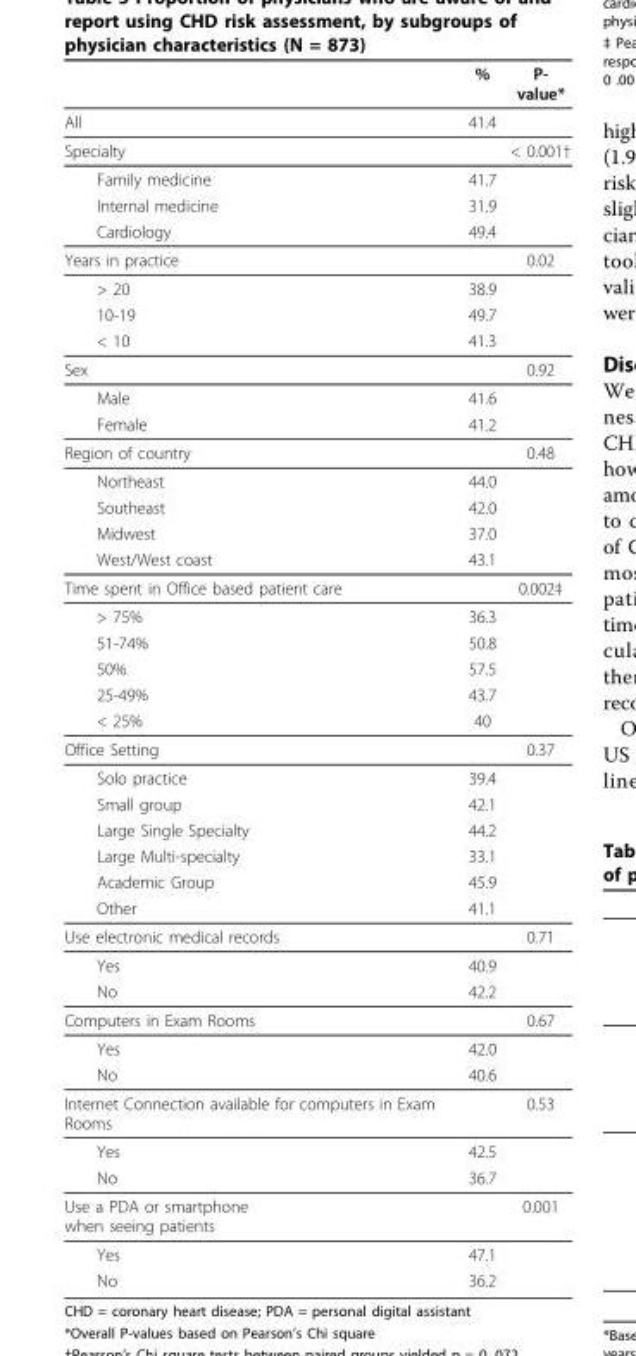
<table><thead><tr><td></td><td>%</td><td>P- value*</td></tr></thead><tbody><tr><td>All</td><td>41.4</td><td></td></tr><tr><td>Specialty</td><td></td><td>&lt; 0.001†</td></tr><tr><td>Family medicine</td><td>41.7</td><td></td></tr><tr><td>Internal medicine</td><td>31.9</td><td></td></tr><tr><td>Cardiology</td><td>49.4</td><td></td></tr><tr><td>Years in practice</td><td></td><td>0.02</td></tr><tr><td>&gt; 20</td><td>38.9</td><td></td></tr><tr><td>10-19</td><td>49.7</td><td></td></tr><tr><td>&lt; 10</td><td>41.3</td><td></td></tr><tr><td>Sex</td><td></td><td>0.92</td></tr><tr><td>Male</td><td>41.6</td><td></td></tr><tr><td>Female</td><td>41.2</td><td></td></tr><tr><td>Region of country</td><td></td><td>0.48</td></tr><tr><td>Northeast</td><td>44.0</td><td></td></tr><tr><td>Southeast</td><td>42.0</td><td></td></tr><tr><td>Midwest</td><td>37.0</td><td></td></tr><tr><td>West/West coast</td><td>43.1</td><td></td></tr><tr><td>Time spent in Office based patient care</td><td></td><td>0.002‡</td></tr><tr><td>&gt; 75%</td><td>36.3</td><td></td></tr><tr><td>51-74%</td><td>50.8</td><td></td></tr><tr><td>50%</td><td>57.5</td><td></td></tr><tr><td>25-49%</td><td>43.7</td><td></td></tr><tr><td>&lt; 25%</td><td>40</td><td></td></tr><tr><td>Office Setting</td><td></td><td>0.37</td></tr><tr><td>Solo practice</td><td>39.4</td><td></td></tr><tr><td>Small group</td><td>42.1</td><td></td></tr><tr><td>Large Single Specialty</td><td>44.2</td><td></td></tr><tr><td>Large Multi-specialty</td><td>33.1</td><td></td></tr><tr><td>Academic Group</td><td>45.9</td><td></td></tr><tr><td>Other</td><td>41.1</td><td></td></tr><tr><td>Use electronic medical records</td><td></td><td>0.71</td></tr><tr><td>Yes</td><td>40.9</td><td></td></tr><tr><td>No</td><td>42.2</td><td></td></tr><tr><td>Computers in Exam Rooms</td><td></td><td>0.67</td></tr><tr><td>Yes</td><td>42.0</td><td></td></tr><tr><td>No</td><td>40.6</td><td></td></tr><tr><td>Internet Connection available for computers in Exam Rooms</td><td></td><td>0.53</td></tr><tr><td>Yes</td><td>42.5</td><td></td></tr><tr><td>No</td><td>36.7</td><td></td></tr><tr><td>Use a PDA or smartphone when seeing patients</td><td></td><td>0.001</td></tr><tr><td>Yes</td><td>47.1</td><td></td></tr><tr><td>No</td><td>36.2</td><td></td></tr></tbody></table>